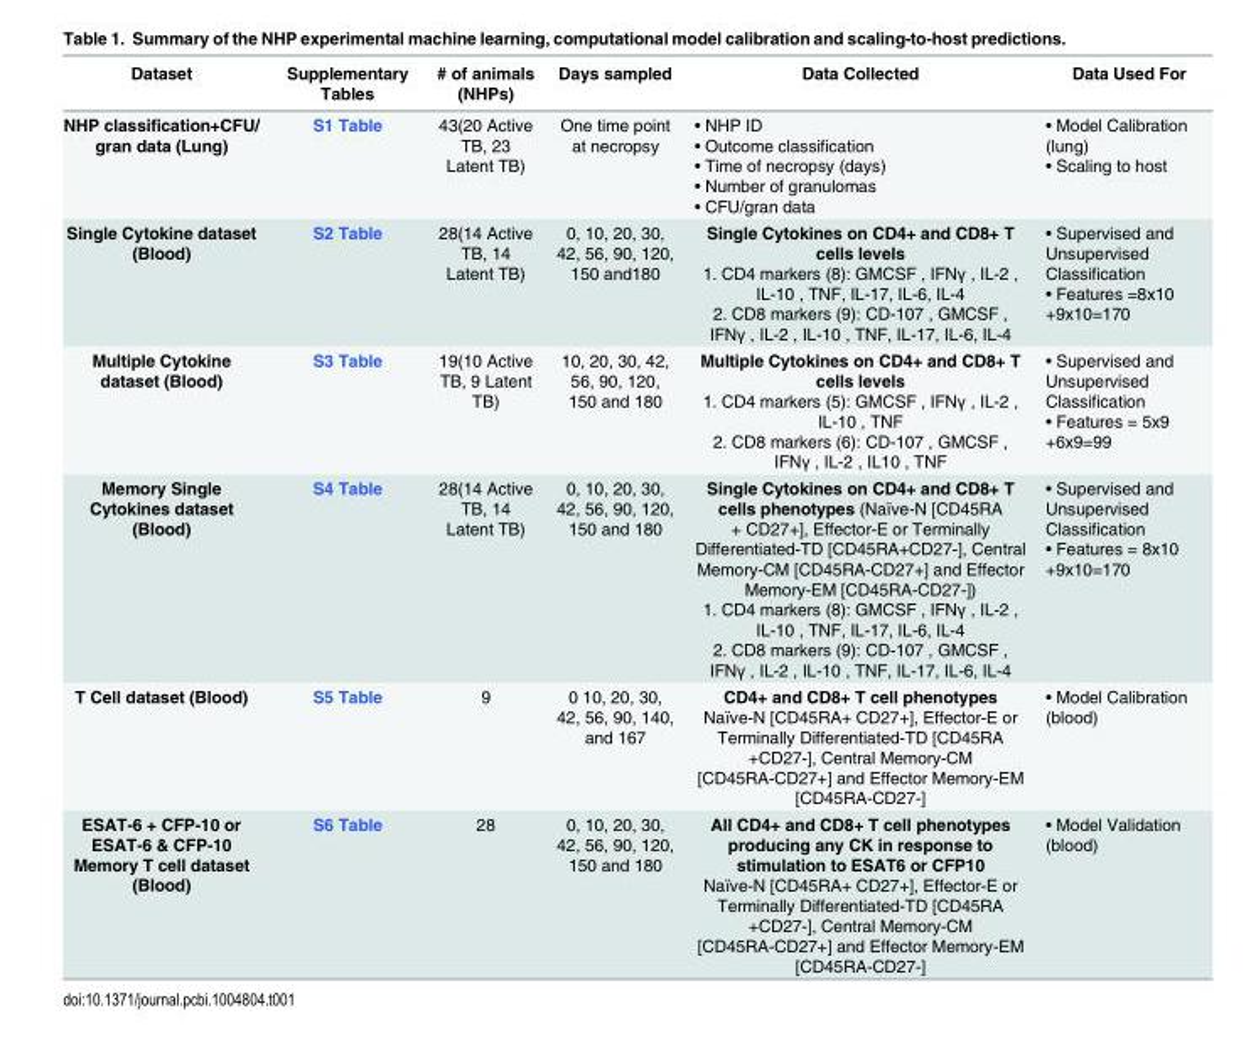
<table><thead><tr><td>Dataset</td><td>Supplementary Tables</td><td># of animals (NHPs)</td><td>Days sampled</td><td>Data Collected</td><td>Data Used For</td></tr></thead><tbody><tr><td>NHP classification+CFU/ gran data (Lung)</td><td>S1 Table</td><td>43(20 Active TB, 23 Latent TB)</td><td>One time point at necropsy</td><td>• NHP ID • Outcome classification • Time of necropsy (days) • Number of granulomas • CFU/gran data</td><td>• Model Calibration (lung) • Scaling to host</td></tr><tr><td>Single Cytokine dataset (Blood)</td><td>S2 Table</td><td>28(14 Active TB, 14 Latent TB)</td><td>0, 10, 20, 30, 42, 56, 90, 120, 150 and180</td><td>Single Cytokines on CD4+ and CD8+ T cells levels 1. CD4 markers (8): GMCSF , IFNγ , IL-2 , IL-10 , TNF, IL-17, IL-6, IL-4 2. CD8 markers (9): CD-107 , GMCSF , IFNγ , IL-2 , IL-10 , TNF, IL-17, IL-6, IL-4</td><td>• Supervised and Unsupervised Classification • Features =8x10 +9x10=170</td></tr><tr><td>Multiple Cytokine dataset (Blood)</td><td>S3 Table</td><td>19(10 Active TB, 9 Latent TB)</td><td>10, 20, 30, 42, 56, 90, 120, 150 and 180</td><td>Multiple Cytokines on CD4+ and CD8+ T cells levels 1. CD4 markers (5): GMCSF , IFNγ , IL-2 , IL-10 , TNF 2. CD8 markers (6): CD-107 , GMCSF , IFNγ , IL-2 , IL10 , TNF</td><td>• Supervised and Unsupervised Classification • Features = 5x9 +6x9=99</td></tr><tr><td>Memory Single Cytokines dataset (Blood)</td><td>S4 Table</td><td>28(14 Active TB, 14 Latent TB)</td><td>0, 10, 20, 30, 42, 56, 90, 120, 150 and 180</td><td>Single Cytokines on CD4+ and CD8+ T cells phenotypes (Naïve-N [CD45RA + CD27+], Effector-E or Terminally Differentiated-TD [CD45RA+CD27-], Central Memory-CM [CD45RA-CD27+] and Effector Memory-EM [CD45RA-CD27-]) 1. CD4 markers (8): GMCSF , IFNγ , IL-2 , IL-10 , TNF, IL-17, IL-6, IL-4 2. CD8 markers (9): CD-107 , GMCSF , IFNγ , IL-2 , IL-10 , TNF, IL-17, IL-6, IL-4</td><td>• Supervised and Unsupervised Classification • Features = 8x10 +9x10=170</td></tr><tr><td>T Cell dataset (Blood)</td><td>S5 Table</td><td>9</td><td>0 10, 20, 30, 42, 56, 90, 140, and 167</td><td>CD4+ and CD8+ T cell phenotypes Naïve-N [CD45RA+ CD27+], Effector-E or Terminally Differentiated-TD [CD45RA +CD27-], Central Memory-CM [CD45RA-CD27+] and Effector Memory-EM [CD45RA-CD27-]</td><td>• Model Calibration (blood)</td></tr><tr><td>ESAT-6 + CFP-10 or ESAT-6 &amp; CFP-10 Memory T cell dataset (Blood)</td><td>S6 Table</td><td>28</td><td>0, 10, 20, 30, 42, 56, 90, 120, 150 and 180</td><td>All CD4+ and CD8+ T cell phenotypes producing any CK in response to stimulation to ESAT6 or CFP10 Naïve-N [CD45RA+ CD27+], Effector-E or Terminally Differentiated-TD [CD45RA +CD27-], Central Memory-CM [CD45RA-CD27+] and Effector Memory-EM [CD45RA-CD27-]</td><td>• Model Validation (blood)</td></tr></tbody></table>